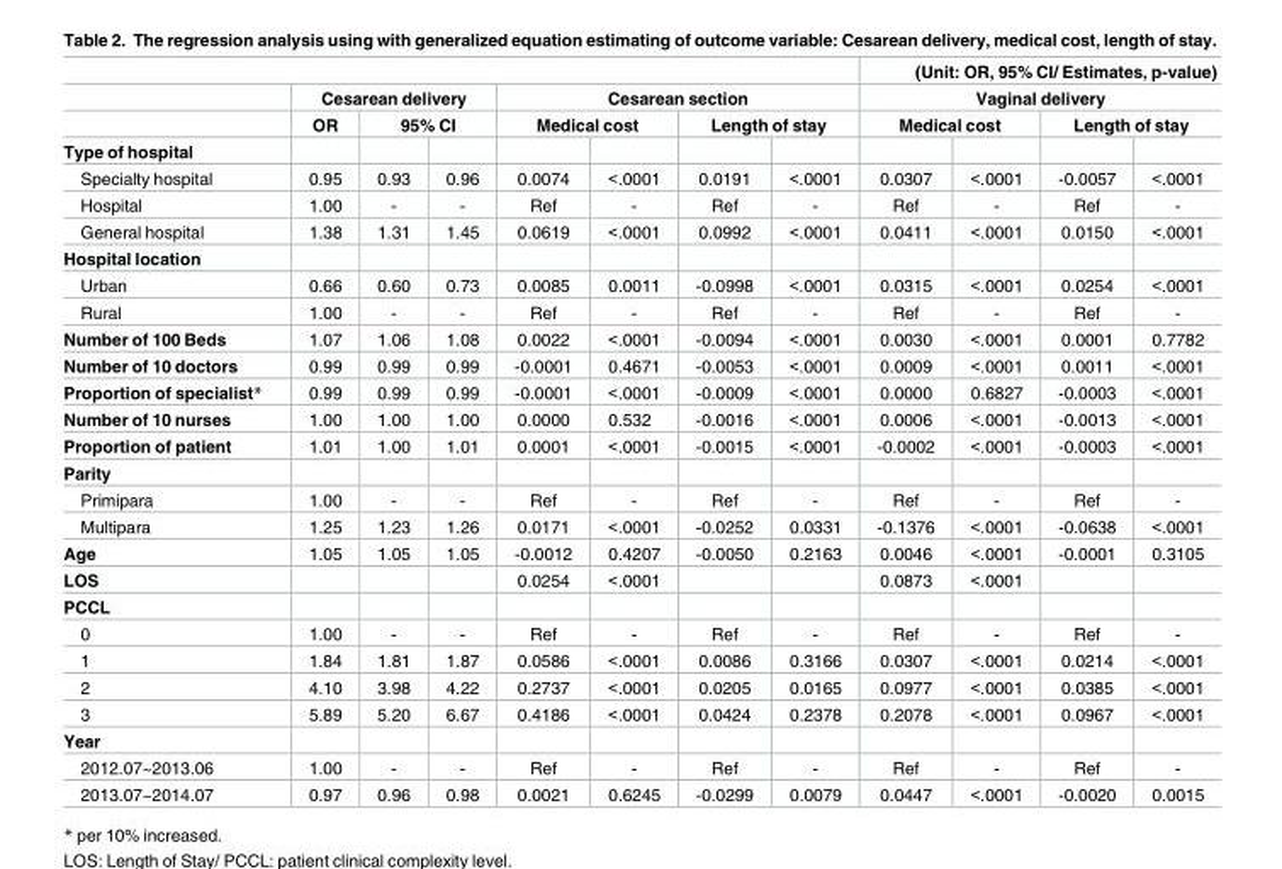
<table><thead><tr><td rowspan="4">Type of hospital</td><td></td><td></td><td></td><td></td><td></td><td></td><td></td><td rowspan="2" colspan="4">(Unit: OR, 95% CI/ Estimates, p-value) Vaginal delivery</td></tr><tr><td colspan="3">Cesarean delivery</td><td colspan="4">Cesarean section</td></tr><tr><td rowspan="2">OR</td><td colspan="2">95% CI</td><td colspan="2">Medical cost</td><td colspan="2">Length of stay</td><td colspan="2">Medical cost</td><td colspan="2">Length of stay</td></tr><tr><td></td><td></td><td></td><td></td><td></td><td></td><td></td><td></td><td></td><td></td></tr></thead><tbody><tr><td>Specialty hospital</td><td>0.95</td><td>0.93</td><td>0.96</td><td>0.0074</td><td>&lt;.0001</td><td>0.0191</td><td>&lt;.0001</td><td>0.0307</td><td>&lt;.0001</td><td>-0.0057</td><td>&lt;.0001</td></tr><tr><td>Hospital</td><td>1.00</td><td>-</td><td>-</td><td>Ref</td><td>-</td><td>Ref</td><td>-</td><td>Ref</td><td>-</td><td>Ref</td><td>-</td></tr><tr><td>General hospital</td><td>1.38</td><td>1.31</td><td>1.45</td><td>0.0619</td><td>&lt;.0001</td><td>0.0992</td><td>&lt;.0001</td><td>0.0411</td><td>&lt;.0001</td><td>0.0150</td><td>&lt;.0001</td></tr><tr><td colspan="12">Hospital location</td></tr><tr><td>Urban</td><td>0.66</td><td>0.60</td><td>0.73</td><td>0.0085</td><td>0.0011</td><td>-0.0998</td><td>&lt;.0001</td><td>0.0315</td><td>&lt;.0001</td><td>0.0254</td><td>&lt;.0001</td></tr><tr><td>Rural</td><td>1.00</td><td>-</td><td>-</td><td>Ref</td><td>-</td><td>Ref</td><td>-</td><td>Ref</td><td>-</td><td>Ref</td><td>-</td></tr><tr><td>Number of 100 Beds</td><td>1.07</td><td>1.06</td><td>1.08</td><td>0.0022</td><td>&lt;.0001</td><td>-0.0094</td><td>&lt;.0001</td><td>0.0030</td><td>&lt;.0001</td><td>0.0001</td><td>0.7782</td></tr><tr><td>Number of 10 doctors</td><td>0.99</td><td>0.99</td><td>0.99</td><td>-0.0001</td><td>0.4671</td><td>-0.0053</td><td>&lt;.0001</td><td>0.0009</td><td>&lt;.0001</td><td>0.0011</td><td>&lt;.0001</td></tr><tr><td>Proportion of specialist*</td><td>0.99</td><td>0.99</td><td>0.99</td><td>-0.0001</td><td>&lt;.0001</td><td>-0.0009</td><td>&lt;.0001</td><td>0.0000</td><td>0.6827</td><td>-0.0003</td><td>&lt;.0001</td></tr><tr><td>Number of 10 nurses</td><td>1.00</td><td>1.00</td><td>1.00</td><td>0.0000</td><td>0.532</td><td>-0.0016</td><td>&lt;.0001</td><td>0.0006</td><td>&lt;.0001</td><td>-0.0013</td><td>&lt;.0001</td></tr><tr><td>Proportion of patient</td><td>1.01</td><td>1.00</td><td>1.01</td><td>0.0001</td><td>&lt;.0001</td><td>-0.0015</td><td>&lt;.0001</td><td>-0.0002</td><td>&lt;.0001</td><td>-0.0003</td><td>&lt;.0001</td></tr><tr><td colspan="12">Parity</td></tr><tr><td>Primipara</td><td>1.00</td><td>-</td><td>-</td><td>Ref</td><td>-</td><td>Ref</td><td>-</td><td>Ref</td><td>-</td><td>Ref</td><td>-</td></tr><tr><td>Multipara</td><td>1.25</td><td>1.23</td><td>1.26</td><td>0.0171</td><td>&lt;.0001</td><td>-0.0252</td><td>0.0331</td><td>-0.1376</td><td>&lt;.0001</td><td>-0.0638</td><td>&lt;.0001</td></tr><tr><td>Age</td><td>1.05</td><td>1.05</td><td>1.05</td><td>-0.0012</td><td>0.4207</td><td>-0.0050</td><td>0.2163</td><td>0.0046</td><td>&lt;.0001</td><td>-0.0001</td><td>0.3105</td></tr><tr><td>LOS</td><td></td><td></td><td></td><td>0.0254</td><td>&lt;.0001</td><td></td><td></td><td>0.0873</td><td>&lt;.0001</td><td></td><td></td></tr><tr><td colspan="12">PCCL</td></tr><tr><td>0</td><td>1.00</td><td>-</td><td>-</td><td>Ref</td><td>-</td><td>Ref</td><td>-</td><td>Ref</td><td>-</td><td>Ref</td><td>-</td></tr><tr><td>1</td><td>1.84</td><td>1.81</td><td>1.87</td><td>0.0586</td><td>&lt;.0001</td><td>0.0086</td><td>0.3166</td><td>0.0307</td><td>&lt;.0001</td><td>0.0214</td><td>&lt;.0001</td></tr><tr><td>2</td><td>4.10</td><td>3.98</td><td>4.22</td><td>0.2737</td><td>&lt;.0001</td><td>0.0205</td><td>0.0165</td><td>0.0977</td><td>&lt;.0001</td><td>0.0385</td><td>&lt;.0001</td></tr><tr><td>3</td><td>5.89</td><td>5.20</td><td>6.67</td><td>0.4186</td><td>&lt;.0001</td><td>0.0424</td><td>0.2378</td><td>0.2078</td><td>&lt;.0001</td><td>0.0967</td><td>&lt;.0001</td></tr><tr><td colspan="12">Year</td></tr><tr><td>2012.07~2013.06</td><td>1.00</td><td>-</td><td>-</td><td>Ref</td><td>-</td><td>Ref</td><td>-</td><td>Ref</td><td>-</td><td>Ref</td><td>-</td></tr><tr><td>2013.07~2014.07</td><td>0.97</td><td>0.96</td><td>0.98</td><td>0.0021</td><td>0.6245</td><td>-0.0299</td><td>0.0079</td><td>0.0447</td><td>&lt;.0001</td><td>-0.0020</td><td>0.0015</td></tr></tbody></table>